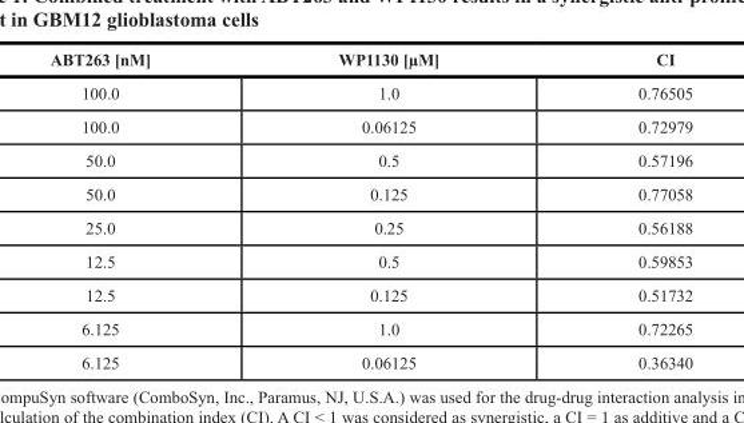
<table><thead><tr><td>ABT263 [nM]</td><td>WP1130 [µM]</td><td>CI</td></tr></thead><tbody><tr><td>100.0</td><td>1.0</td><td>0.76505</td></tr><tr><td>100.0</td><td>0.06125</td><td>0.72979</td></tr><tr><td>50.0</td><td>0.5</td><td>0.57196</td></tr><tr><td>50.0</td><td>0.125</td><td>0.77058</td></tr><tr><td>25.0</td><td>0.25</td><td>0.56188</td></tr><tr><td>12.5</td><td>0.5</td><td>0.59853</td></tr><tr><td>12.5</td><td>0.125</td><td>0.51732</td></tr><tr><td>6.125</td><td>1.0</td><td>0.72265</td></tr><tr><td>6.125</td><td>0.06125</td><td>0.36340</td></tr></tbody></table>